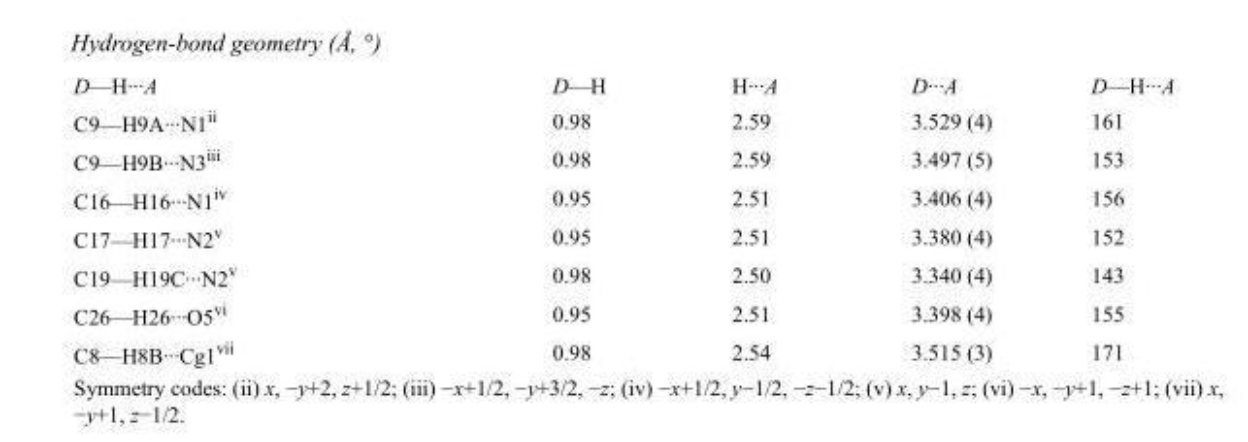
<table><tbody><tr><td>D—H···A</td><td>D—H</td><td>H···A</td><td>D···A</td><td>D—H···A</td></tr><tr><td>C9—H9A···N1<sup>ii</sup></td><td>0.98</td><td>2.59</td><td>3.529 (4)</td><td>161</td></tr><tr><td>C9—H9B···N3<sup>iii</sup></td><td>0.98</td><td>2.59</td><td>3.497 (5)</td><td>153</td></tr><tr><td>C16—H16···N1<sup>iv</sup></td><td>0.95</td><td>2.51</td><td>3.406 (4)</td><td>156</td></tr><tr><td>C17—H17···N2<sup>v</sup></td><td>0.95</td><td>2.51</td><td>3.380 (4)</td><td>152</td></tr><tr><td>C19—H19C···N2<sup>v</sup></td><td>0.98</td><td>2.50</td><td>3.340 (4)</td><td>143</td></tr><tr><td>C26—H26···O5<sup>vi</sup></td><td>0.95</td><td>2.51</td><td>3.398 (4)</td><td>155</td></tr><tr><td>C8—H8B···Cg1<sup>vii</sup></td><td>0.98</td><td>2.54</td><td>3.515 (3)</td><td>171</td></tr></tbody></table>